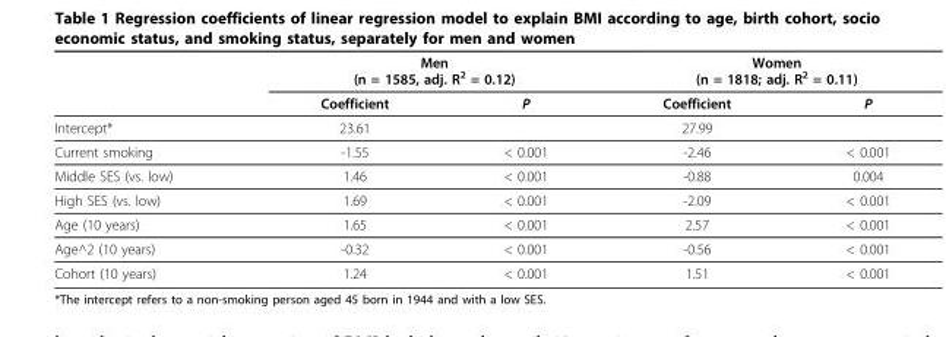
<table><thead><tr><td rowspan="2"></td><td colspan="2">Men (n = 1585, adj. R<sup>2</sup> = 0.12)</td><td colspan="2">Women (n = 1818; adj. R<sup>2</sup> = 0.11)</td></tr><tr><td>Coefficient</td><td>P</td><td>Coefficient</td><td>P</td></tr></thead><tbody><tr><td>Intercept*</td><td>23.61</td><td></td><td>27.99</td><td></td></tr><tr><td>Current smoking</td><td>-1.55</td><td>&lt; 0.001</td><td>-2.46</td><td>&lt; 0.001</td></tr><tr><td>Middle SES (vs. low)</td><td>1.46</td><td>&lt; 0.001</td><td>-0.88</td><td>0.004</td></tr><tr><td>High SES (vs. low)</td><td>1.69</td><td>&lt; 0.001</td><td>-2.09</td><td>&lt; 0.001</td></tr><tr><td>Age (10 years)</td><td>1.65</td><td>&lt; 0.001</td><td>2.57</td><td>&lt; 0.001</td></tr><tr><td>Age^2 (10 years)</td><td>-0.32</td><td>&lt; 0.001</td><td>-0.56</td><td>&lt; 0.001</td></tr><tr><td>Cohort (10 years)</td><td>1.24</td><td>&lt; 0.001</td><td>1.51</td><td>&lt; 0.001</td></tr></tbody></table>